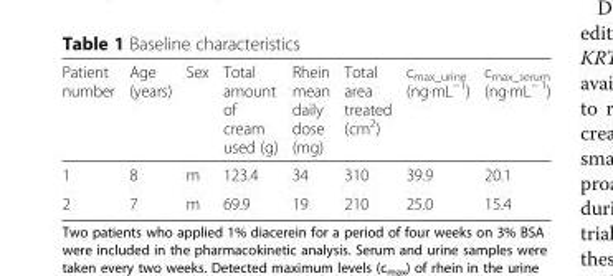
<table><thead><tr><td>Patient number</td><td>Age (years)</td><td>Sex</td><td>Total amount of cream used (g)</td><td>Rhein mean daily dose (mg)</td><td>Total area treated (cm<sup>2</sup>)</td><td>c<sub>max_urine</sub> (ng∙mL<sup>−1</sup>)</td><td>c<sub>max_serum</sub> (ng∙mL<sup>− 1</sup>)</td></tr></thead><tbody><tr><td>1</td><td>8</td><td>m</td><td>123.4</td><td>34</td><td>310</td><td>39.9</td><td>20.1</td></tr><tr><td>2</td><td>7</td><td>m</td><td>69.9</td><td>19</td><td>210</td><td>25.0</td><td>15.4</td></tr></tbody></table>